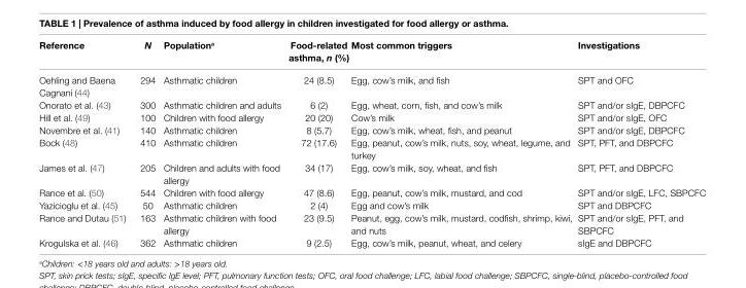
<table><thead><tr><td>Reference</td><td>N</td><td>Population<sup>a</sup></td><td>Food-related asthma, n (%)</td><td>Most common triggers</td><td>investigations</td></tr></thead><tbody><tr><td>Oehling and Baena Cagnani (44)</td><td>294</td><td>Asthmatic children</td><td>24 (8.5)</td><td>Egg, cow’s milk, and fish</td><td>SPT and OFC</td></tr><tr><td>Onorato et al. (43)</td><td>300</td><td>Asthmatic children and adults</td><td>6 (2)</td><td>Egg, wheat, corn, fish, and cow’s milk</td><td>SPT and/or sIgE, DBPCFC</td></tr><tr><td>Hill et al. (49)</td><td>100</td><td>Children with food allergy</td><td>20 (20)</td><td>Cow’s milk</td><td>SPT and/or sIgE, OFC</td></tr><tr><td>Novembre et al. (41)</td><td>140</td><td>Asthmatic children</td><td>8 (5.7)</td><td>Egg, cow’s milk, wheat, fish, and peanut</td><td>SPT and/or sIgE, DBPCFC</td></tr><tr><td>Bock (48)</td><td>410</td><td>Asthmatic children</td><td>72 (17.6)</td><td>Egg, peanut, cow’s milk, nuts, soy, wheat, legume, and turkey</td><td>SPT, PFT, and DBPCFC</td></tr><tr><td>James et al. (47)</td><td>205</td><td>Children and adults with food allergy</td><td>34 (17)</td><td>Egg, cow’s milk, soy, wheat, and fish</td><td>SPT, PFT, and DBPCFC</td></tr><tr><td>Rance et al. (50)</td><td>544</td><td>Children with food allergy</td><td>47 (8.6)</td><td>Egg, peanut, cow’s milk, mustard, and cod</td><td>SPT and/or sIgE, LFC, SBPCFC</td></tr><tr><td>Yazicioglu et al. (45)</td><td>50</td><td>Asthmatic children</td><td>2 (4)</td><td>Egg and cow’s milk</td><td>SPT and DBPCFC</td></tr><tr><td>Rance and Dutau (51)</td><td>163</td><td>Asthmatic children with food allergy</td><td>23 (9.5)</td><td>Peanut, egg, cow’s milk, mustard, codfish, shrimp, kiwi, and nuts</td><td>SPT and/or sIgE, PFT, and SBPCFC</td></tr><tr><td>Krogulska et al. (46)</td><td>362</td><td>Asthmatic children</td><td>9 (2.5)</td><td>Egg, cow’s milk, peanut, wheat, and celery</td><td>sIgE and DBPCFC</td></tr></tbody></table>